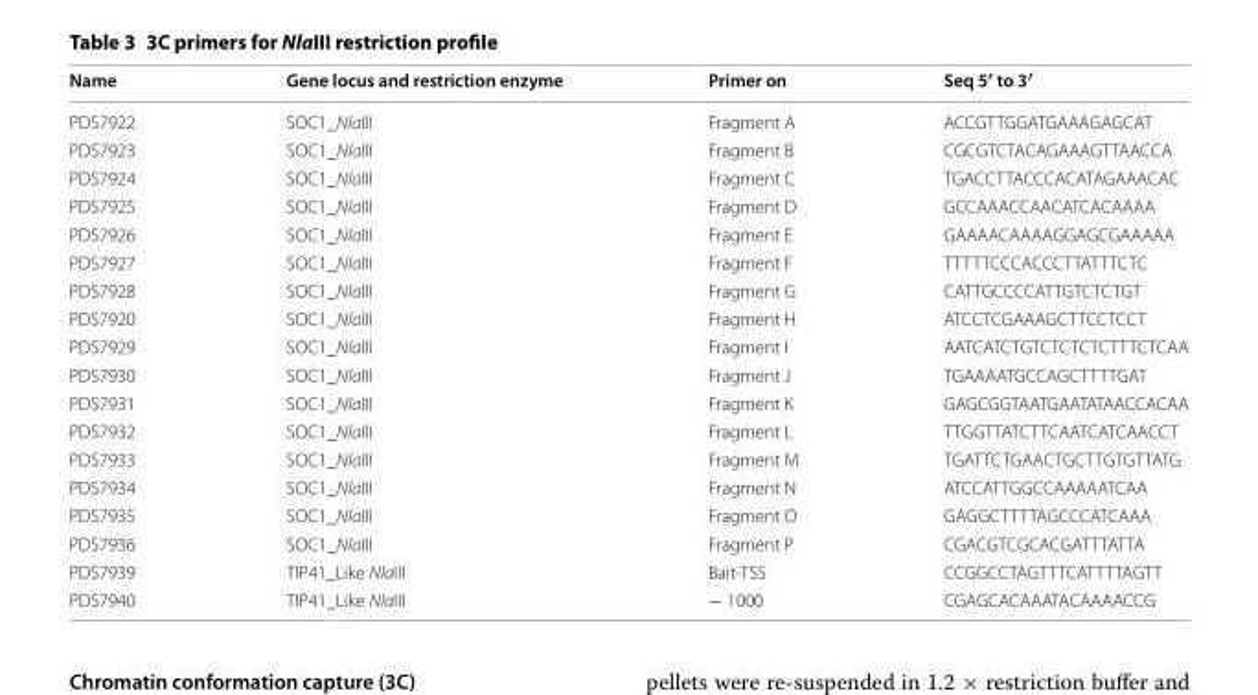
<table><thead><tr><td>Name</td><td>Gene locus and restriction enzyme</td><td>Primer on</td><td>Seq 5′ to 3′</td></tr></thead><tbody><tr><td>PDS7922</td><td>SOC1_NlaIII</td><td>Fragment A</td><td>ACCGTTGGATGAAAGAGCAT</td></tr><tr><td>PDS7923</td><td>SOC1_NlaIII</td><td>Fragment B</td><td>CGCGTCTACAGAAAGTTAACCA</td></tr><tr><td>PDS7924</td><td>SOC1_NlaIII</td><td>Fragment C</td><td>TGACCTTACCCACATAGAAACAC</td></tr><tr><td>PDS7925</td><td>SOC1_NlaIII</td><td>Fragment D</td><td>GCCAAACCAACATCACAAAA</td></tr><tr><td>PDS7926</td><td>SOC1_NlaIII</td><td>Fragment E</td><td>GAAAACAAAAGGAGCGAAAAA</td></tr><tr><td>PDS7927</td><td>SOC1_NlaIII</td><td>Fragment F</td><td>TTTTTCCCACCCTTATTTCTC</td></tr><tr><td>PDS7928</td><td>SOC1_NlaIII</td><td>Fragment G</td><td>CATTGCCCCATTGTCTCTGT</td></tr><tr><td>PDS7920</td><td>SOC1_NlaIII</td><td>Fragment H</td><td>ATCCTCGAAAGCTTCCTCCT</td></tr><tr><td>PDS7929</td><td>SOC1_NlaIII</td><td>Fragment I</td><td>AATCATCTGTCTCTCTCTTTCTCAA</td></tr><tr><td>PDS7930</td><td>SOC1_NlaIII</td><td>Fragment J</td><td>TGAAAATGCCAGCTTTTGAT</td></tr><tr><td>PDS7931</td><td>SOC1_NlaIII</td><td>Fragment K</td><td>GAGCGGTAATGAATATAACCACAA</td></tr><tr><td>PDS7932</td><td>SOC1_NlaIII</td><td>Fragment L</td><td>TTGGTTATCTTCAATCATCAACCT</td></tr><tr><td>PDS7933</td><td>SOC1_NlaIII</td><td>Fragment M</td><td>TGATTCTGAACTGCTTGTGTTATG</td></tr><tr><td>PDS7934</td><td>SOC1_NlaIII</td><td>Fragment N</td><td>ATCCATTGGCCAAAAATCAA</td></tr><tr><td>PDS7935</td><td>SOC1_NlaIII</td><td>Fragment O</td><td>GAGGCTTTTAGCCCATCAAA</td></tr><tr><td>PDS7936</td><td>SOC1_NlaIII</td><td>Fragment P</td><td>CGACGTCGCACGATTTATTA</td></tr><tr><td>PDS7939</td><td>TIP41_Like NlaIII</td><td>Bait-TSS</td><td>CCGGCCTAGTTTCATTTTAGTT</td></tr><tr><td>PDS7940</td><td>TIP41_Like NlaIII</td><td>− 1000</td><td>CGAGCACAAATACAAAACCG</td></tr></tbody></table>